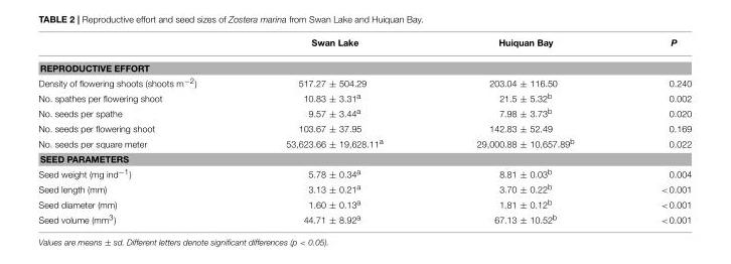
<table><thead><tr><td></td><td>Swan Lake</td><td>Huiquan Bay</td><td>P</td></tr></thead><tbody><tr><td colspan="4">REPRODUCTIVE EFFORT</td></tr><tr><td>Density of flowering shoots (shoots m<sup>−2</sup>)</td><td>517.27 ± 504.29</td><td>203.04 ± 116.50</td><td>0.240</td></tr><tr><td>No. spathes per flowering shoot</td><td>10.83 ± 3.31<sup>a</sup></td><td>21.5 ± 5.32<sup>b</sup></td><td>0.002</td></tr><tr><td>No. seeds per spathe</td><td>9.57 ± 3.44<sup>a</sup></td><td>7.98 ± 3.73<sup>b</sup></td><td>0.020</td></tr><tr><td>No. seeds per flowering shoot</td><td>103.67 ± 37.95</td><td>142.83 ± 52.49</td><td>0.169</td></tr><tr><td>No. seeds per square meter</td><td>53,623.66 ± 19,628.11<sup>a</sup></td><td>29,000.88 ± 10,657.89<sup>b</sup></td><td>0.022</td></tr><tr><td colspan="4">SEED PARAMETERS</td></tr><tr><td>Seed weight (mg ind<sup>−1</sup>)</td><td>5.78 ± 0.34<sup>a</sup></td><td>8.81 ± 0.03<sup>b</sup></td><td>0.004</td></tr><tr><td>Seed length (mm)</td><td>3.13 ± 0.21<sup>a</sup></td><td>3.70 ± 0.22<sup>b</sup></td><td>&lt;0.001</td></tr><tr><td>Seed diameter (mm)</td><td>1.60 ± 0.13<sup>a</sup></td><td>1.81 ± 0.12<sup>b</sup></td><td>&lt;0.001</td></tr><tr><td>Seed volume (mm<sup>3</sup>)</td><td>44.71 ± 8.92<sup>a</sup></td><td>67.13 ± 10.52<sup>b</sup></td><td>&lt;0.001</td></tr></tbody></table>